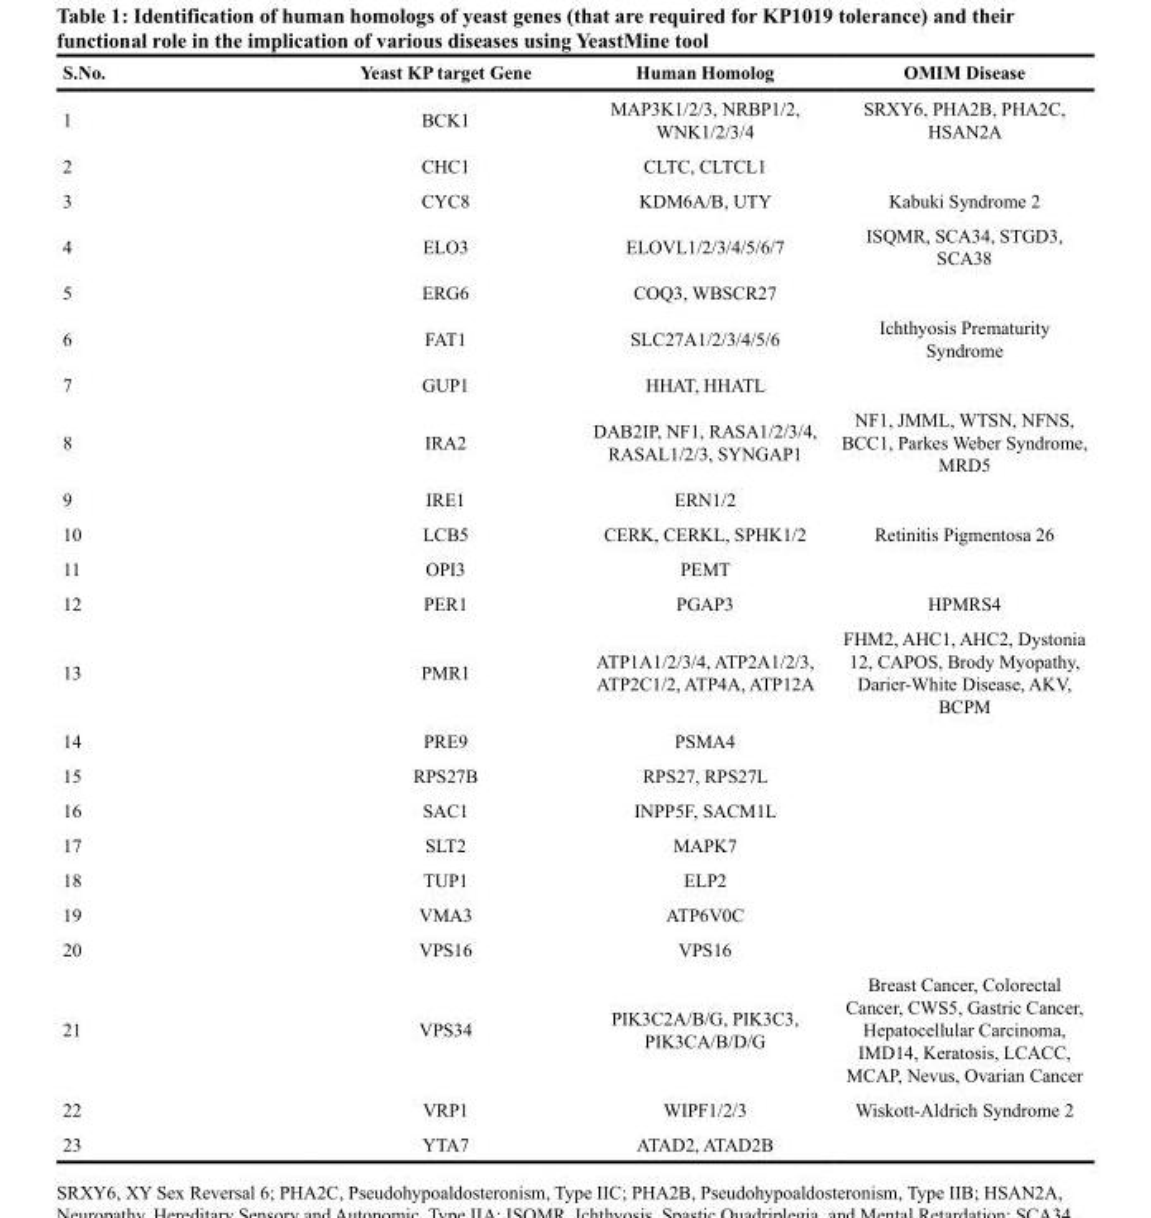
<table><thead><tr><td>S.No.</td><td>Yeast KP target Gene</td><td>Human Homolog</td><td>OMIM Disease</td></tr></thead><tbody><tr><td>1</td><td>BCK1</td><td>MAP3K1/2/3, NRBP1/2, WNK1/2/3/4</td><td>SRXY6, PHA2B, PHA2C, HSAN2A</td></tr><tr><td>2</td><td>CHC1</td><td>CLTC, CLTCL1</td><td></td></tr><tr><td>3</td><td>CYC8</td><td>KDM6A/B, UTY</td><td>Kabuki Syndrome 2</td></tr><tr><td>4</td><td>ELO3</td><td>ELOVL1/2/3/4/5/6/7</td><td>ISQMR, SCA34, STGD3, SCA38</td></tr><tr><td>5</td><td>ERG6</td><td>COQ3, WBSCR27</td><td></td></tr><tr><td>6</td><td>FAT1</td><td>SLC27A1/2/3/4/5/6</td><td>Ichthyosis Prematurity Syndrome</td></tr><tr><td>7</td><td>GUP1</td><td>HHAT, HHATL</td><td></td></tr><tr><td>8</td><td>IRA2</td><td>DAB2IP, NF1, RASA1/2/3/4, RASAL1/2/3, SYNGAP1</td><td>NF1, JMML, WTSN, NFNS, BCC1, Parkes Weber Syndrome, MRD5</td></tr><tr><td>9</td><td>IRE1</td><td>ERN1/2</td><td></td></tr><tr><td>10</td><td>LCB5</td><td>CERK, CERKL, SPHK1/2</td><td>Retinitis Pigmentosa 26</td></tr><tr><td>11</td><td>OPI3</td><td>PEMT</td><td></td></tr><tr><td>12</td><td>PER1</td><td>PGAP3</td><td>HPMRS4</td></tr><tr><td>13</td><td>PMR1</td><td>ATP1A1/2/3/4, ATP2A1/2/3, ATP2C1/2, ATP4A, ATP12A</td><td>FHM2, AHC1, AHC2, Dystonia 12, CAPOS, Brody Myopathy, Darier-White Disease, AKV, BCPM</td></tr><tr><td>14</td><td>PRE9</td><td>PSMA4</td><td></td></tr><tr><td>15</td><td>RPS27B</td><td>RPS27, RPS27L</td><td></td></tr><tr><td>16</td><td>SAC1</td><td>INPP5F, SACM1L</td><td></td></tr><tr><td>17</td><td>SLT2</td><td>MAPK7</td><td></td></tr><tr><td>18</td><td>TUP1</td><td>ELP2</td><td></td></tr><tr><td>19</td><td>VMA3</td><td>ATP6V0C</td><td></td></tr><tr><td>20</td><td>VPS16</td><td>VPS16</td><td></td></tr><tr><td>21</td><td>VPS34</td><td>PIK3C2A/B/G, PIK3C3, PIK3CA/B/D/G</td><td>Breast Cancer, Colorectal Cancer, CWS5, Gastric Cancer, Hepatocellular Carcinoma, IMD14, Keratosis, LCACC, MCAP, Nevus, Ovarian Cancer</td></tr><tr><td>22</td><td>VRP1</td><td>WIPF1/2/3</td><td>Wiskott-Aldrich Syndrome 2</td></tr><tr><td>23</td><td>YTA7</td><td>ATAD2, ATAD2B</td><td></td></tr></tbody></table>